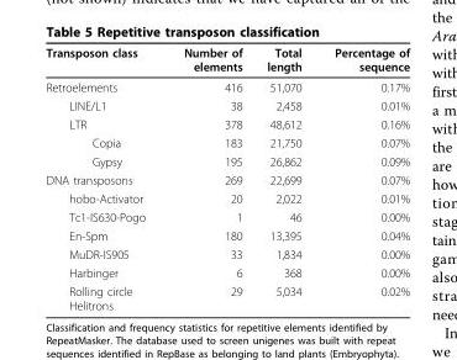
<table><thead><tr><td>Transposon class</td><td>Number of elements</td><td>Total length</td><td>Percentage of sequence</td></tr></thead><tbody><tr><td>Retroelements</td><td>416</td><td>51,070</td><td>0.17%</td></tr><tr><td>LINE/L1</td><td>38</td><td>2,458</td><td>0.01%</td></tr><tr><td>LTR</td><td>378</td><td>48,612</td><td>0.16%</td></tr><tr><td>Copia</td><td>183</td><td>21,750</td><td>0.07%</td></tr><tr><td>Gypsy</td><td>195</td><td>26,862</td><td>0.09%</td></tr><tr><td>DNA transposons</td><td>269</td><td>22,699</td><td>0.07%</td></tr><tr><td>hobo-Activator</td><td>20</td><td>2,022</td><td>0.01%</td></tr><tr><td>Tc1-IS630-Pogo</td><td>1</td><td>46</td><td>0.00%</td></tr><tr><td>En-Spm</td><td>180</td><td>13,395</td><td>0.04%</td></tr><tr><td>MuDR-IS905</td><td>33</td><td>1,834</td><td>0.00%</td></tr><tr><td>Harbinger</td><td>6</td><td>368</td><td>0.00%</td></tr><tr><td>Rolling circle Helitrons</td><td>29</td><td>5,034</td><td>0.02%</td></tr></tbody></table>